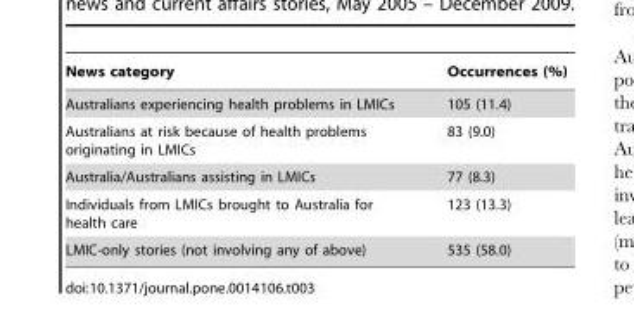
<table><thead><tr><td>News category</td><td>Occurrences (%)</td></tr></thead><tbody><tr><td>Australians experiencing health problems in LMICs</td><td>105 (11.4)</td></tr><tr><td>Australians at risk because of health problems originating in LMICs</td><td>83 (9.0)</td></tr><tr><td>Australia/Australians assisting in LMICs</td><td>77 (8.3)</td></tr><tr><td>Individuals from LMICs brought to Australia for health care</td><td>123 (13.3)</td></tr><tr><td>LMIC-only stories (not involving any of above)</td><td>535 (58.0)</td></tr></tbody></table>